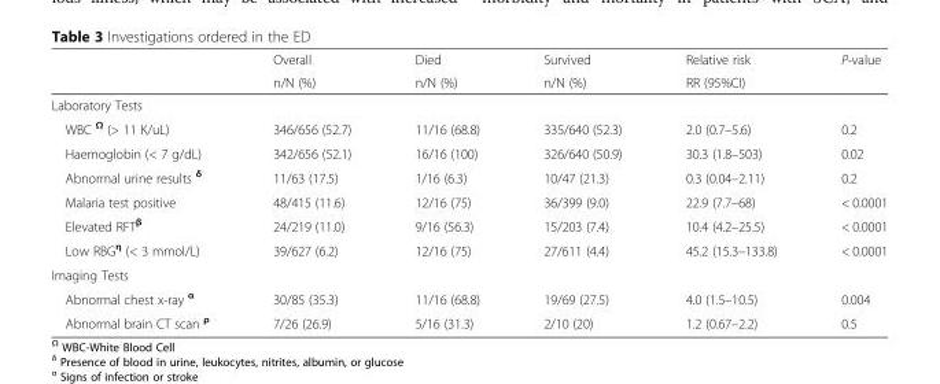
<table><thead><tr><td rowspan="2"></td><td rowspan="2">Overall n/N (%)</td><td rowspan="2">Died n/N (%)</td><td rowspan="2">Survived n/N (%)</td><td rowspan="2">Relative risk RR (95%CI)</td><td rowspan="2">P-value</td></tr><tr></tr></thead><tbody><tr><td colspan="6">Laboratory Tests</td></tr><tr><td>WBC <sup>Ω</sup> (&gt; 11 K/uL)</td><td>346/656 (52.7)</td><td>11/16 (68.8)</td><td>335/640 (52.3)</td><td>2.0 (0.7–5.6)</td><td>0.2</td></tr><tr><td>Haemoglobin (&lt; 7 g/dL)</td><td>342/656 (52.1)</td><td>16/16 (100)</td><td>326/640 (50.9)</td><td>30.3 (1.8–503)</td><td>0.02</td></tr><tr><td>Abnormal urine results <sup>δ</sup></td><td>11/63 (17.5)</td><td>1/16 (6.3)</td><td>10/47 (21.3)</td><td>0.3 (0.04–2.11)</td><td>0.2</td></tr><tr><td>Malaria test positive</td><td>48/415 (11.6)</td><td>12/16 (75)</td><td>36/399 (9.0)</td><td>22.9 (7.7–68)</td><td>&lt; 0.0001</td></tr><tr><td>Elevated RFT<sup>β</sup></td><td>24/219 (11.0)</td><td>9/16 (56.3)</td><td>15/203 (7.4)</td><td>10.4 (4.2–25.5)</td><td>&lt; 0.0001</td></tr><tr><td>Low RBG<sup>η</sup> (&lt; 3 mmol/L)</td><td>39/627 (6.2)</td><td>12/16 (75)</td><td>27/611 (4.4)</td><td>45.2 (15.3–133.8)</td><td>&lt; 0.0001</td></tr><tr><td colspan="6">Imaging Tests</td></tr><tr><td>Abnormal chest x-ray <sup>α</sup></td><td>30/85 (35.3)</td><td>11/16 (68.8)</td><td>19/69 (27.5)</td><td>4.0 (1.5–10.5)</td><td>0.004</td></tr><tr><td>Abnormal brain CT scan <sup>ρ</sup></td><td>7/26 (26.9)</td><td>5/16 (31.3)</td><td>2/10 (20)</td><td>1.2 (0.67–2.2)</td><td>0.5</td></tr></tbody></table>